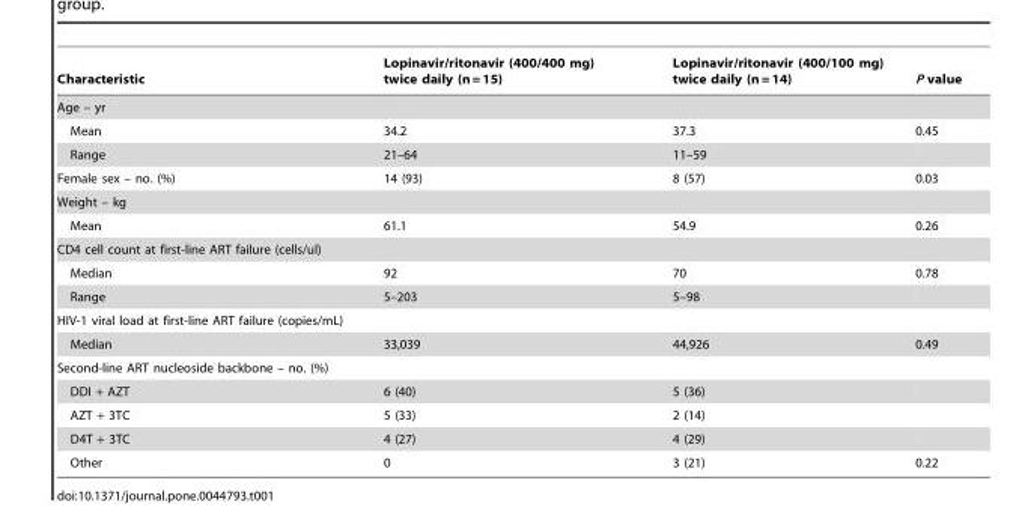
<table><thead><tr><td>Characteristic</td><td>Lopinavir/ritonavir (400/400 mg) twice daily (n = 15)</td><td>Lopinavir/ritonavir (400/100 mg) twice daily (n = 14)</td><td>P value</td></tr></thead><tbody><tr><td colspan="4">Age – yr</td></tr><tr><td>Mean</td><td>34.2</td><td>37.3</td><td>0.45</td></tr><tr><td>Range</td><td>21–64</td><td>11–59</td><td></td></tr><tr><td>Female sex – no. (%)</td><td>14 (93)</td><td>8 (57)</td><td>0.03</td></tr><tr><td colspan="4">Weight – kg</td></tr><tr><td>Mean</td><td>61.1</td><td>54.9</td><td>0.26</td></tr><tr><td colspan="4">CD4 cell count at first-line ART failure (cells/ul)</td></tr><tr><td>Median</td><td>92</td><td>70</td><td>0.78</td></tr><tr><td>Range</td><td>5–203</td><td>5–98</td><td></td></tr><tr><td colspan="4">HIV-1 viral load at first-line ART failure (copies/mL)</td></tr><tr><td>Median</td><td>33,039</td><td>44,926</td><td>0.49</td></tr><tr><td colspan="4">Second-line ART nucleoside backbone – no. (%)</td></tr><tr><td>DDI + AZT</td><td>6 (40)</td><td>5 (36)</td><td></td></tr><tr><td>AZT + 3TC</td><td>5 (33)</td><td>2 (14)</td><td></td></tr><tr><td>D4T + 3TC</td><td>4 (27)</td><td>4 (29)</td><td></td></tr><tr><td>Other</td><td>0</td><td>3 (21)</td><td>0.22</td></tr></tbody></table>